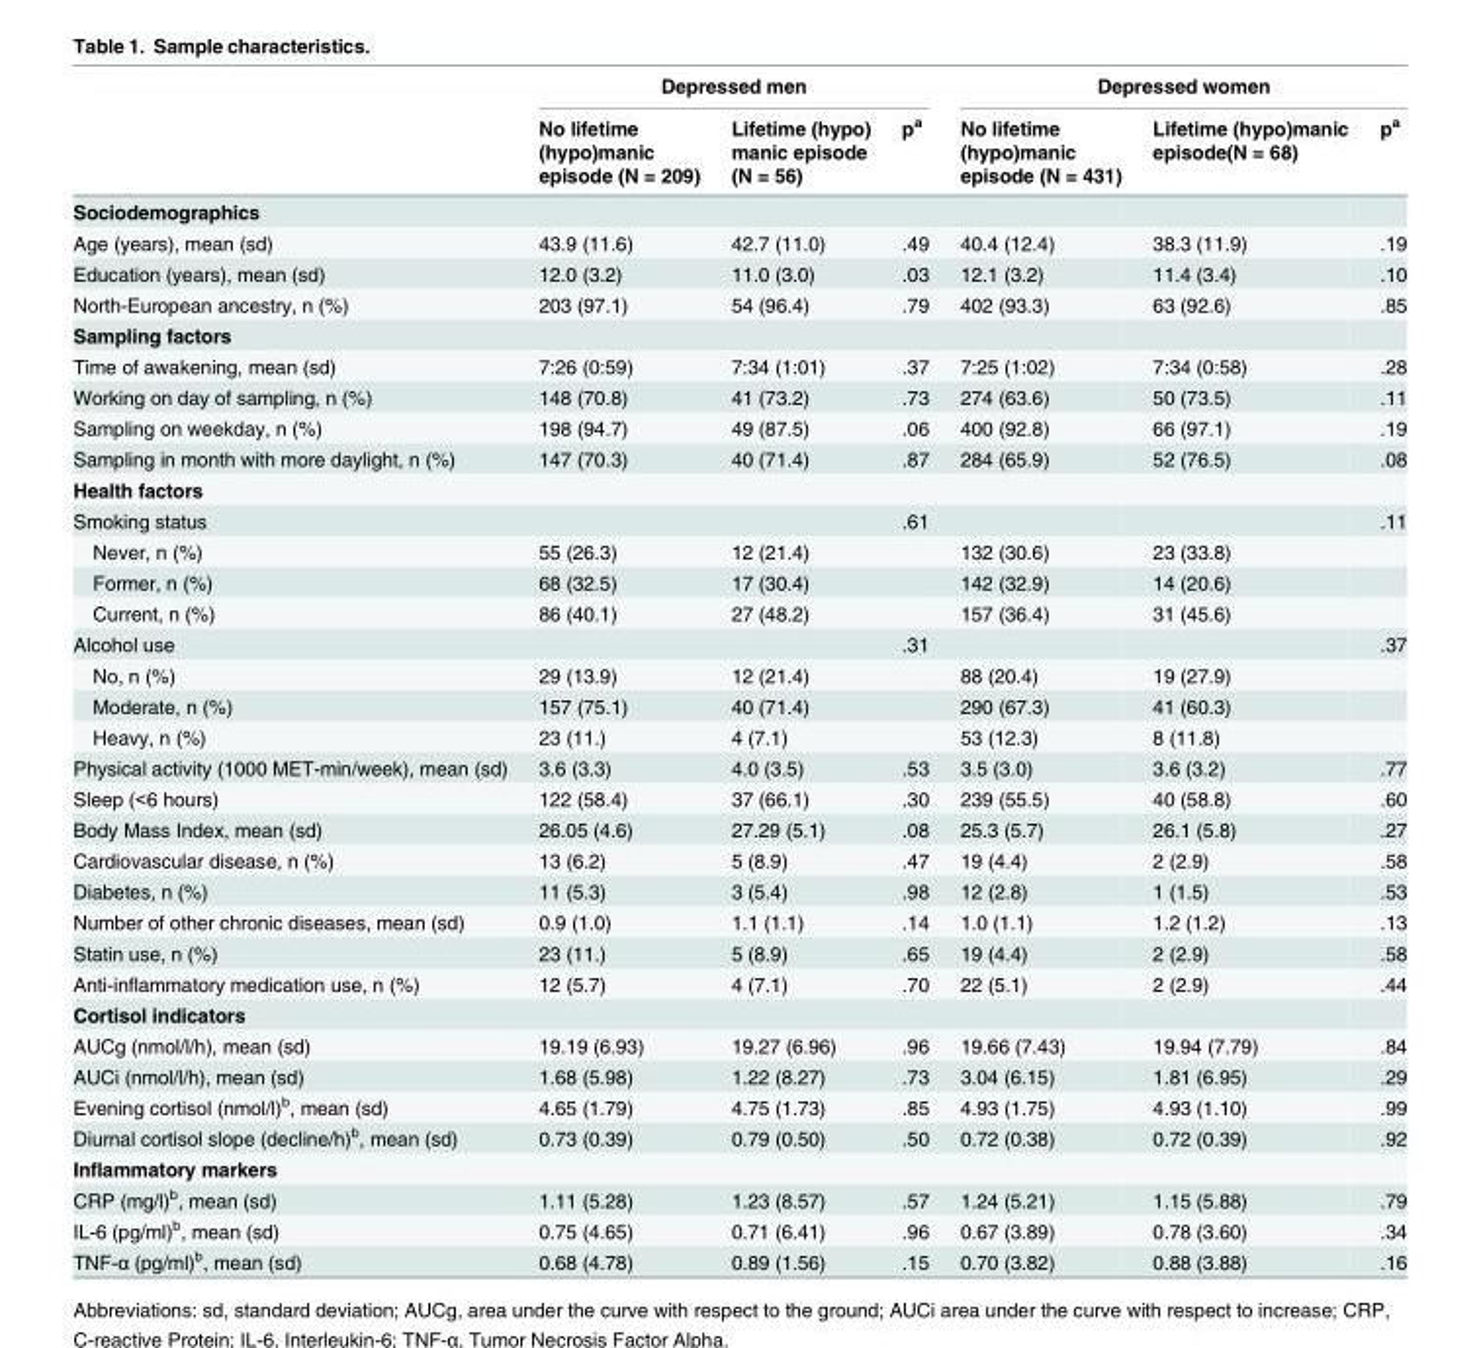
<table><thead><tr><td rowspan="2"></td><td colspan="3">Depressed men</td><td colspan="3">Depressed women</td></tr><tr><td>No lifetime (hypo)manic episode (N = 209)</td><td>Lifetime (hypo) manic episode (N = 56)</td><td>p<sup>a</sup></td><td>No lifetime (hypo)manic episode (N = 431)</td><td>Lifetime (hypo)manic episode(N = 68)</td><td>p<sup>a</sup></td></tr></thead><tbody><tr><td colspan="7">Sociodemographics</td></tr><tr><td>Age (years), mean (sd)</td><td>43.9 (11.6)</td><td>42.7 (11.0)</td><td>.49</td><td>40.4 (12.4)</td><td>38.3 (11.9)</td><td>.19</td></tr><tr><td>Education (years), mean (sd)</td><td>12.0 (3.2)</td><td>11.0 (3.0)</td><td>.03</td><td>12.1 (3.2)</td><td>11.4 (3.4)</td><td>.10</td></tr><tr><td>North-European ancestry, n (%)</td><td>203 (97.1)</td><td>54 (96.4)</td><td>.79</td><td>402 (93.3)</td><td>63 (92.6)</td><td>.85</td></tr><tr><td colspan="7">Sampling factors</td></tr><tr><td>Time of awakening, mean (sd)</td><td>7:26 (0:59)</td><td>7:34 (1:01)</td><td>.37</td><td>7:25 (1:02)</td><td>7:34 (0:58)</td><td>.28</td></tr><tr><td>Working on day of sampling, n (%)</td><td>148 (70.8)</td><td>41 (73.2)</td><td>.73</td><td>274 (63.6)</td><td>50 (73.5)</td><td>.11</td></tr><tr><td>Sampling on weekday, n (%)</td><td>198 (94.7)</td><td>49 (87.5)</td><td>.06</td><td>400 (92.8)</td><td>66 (97.1)</td><td>.19</td></tr><tr><td>Sampling in month with more daylight, n (%)</td><td>147 (70.3)</td><td>40 (71.4)</td><td>.87</td><td>284 (65.9)</td><td>52 (76.5)</td><td>.08</td></tr><tr><td colspan="7">Health factors</td></tr><tr><td>Smoking status</td><td></td><td></td><td>.61</td><td></td><td></td><td>.11</td></tr><tr><td>Never, n (%)</td><td>55 (26.3)</td><td>12 (21.4)</td><td></td><td>132 (30.6)</td><td>23 (33.8)</td><td></td></tr><tr><td>Former, n (%)</td><td>68 (32.5)</td><td>17 (30.4)</td><td></td><td>142 (32.9)</td><td>14 (20.6)</td><td></td></tr><tr><td>Current, n (%)</td><td>86 (40.1)</td><td>27 (48.2)</td><td></td><td>157 (36.4)</td><td>31 (45.6)</td><td></td></tr><tr><td>Alcohol use</td><td></td><td></td><td>.31</td><td></td><td></td><td>.37</td></tr><tr><td>No, n (%)</td><td>29 (13.9)</td><td>12 (21.4)</td><td></td><td>88 (20.4)</td><td>19 (27.9)</td><td></td></tr><tr><td>Moderate, n (%)</td><td>157 (75.1)</td><td>40 (71.4)</td><td></td><td>290 (67.3)</td><td>41 (60.3)</td><td></td></tr><tr><td>Heavy, n (%)</td><td>23 (11.)</td><td>4 (7.1)</td><td></td><td>53 (12.3)</td><td>8 (11.8)</td><td></td></tr><tr><td>Physical activity (1000 MET-min/week), mean (sd)</td><td>3.6 (3.3)</td><td>4.0 (3.5)</td><td>.53</td><td>3.5 (3.0)</td><td>3.6 (3.2)</td><td>.77</td></tr><tr><td>Sleep (&lt;6 hours)</td><td>122 (58.4)</td><td>37 (66.1)</td><td>.30</td><td>239 (55.5)</td><td>40 (58.8)</td><td>.60</td></tr><tr><td>Body Mass Index, mean (sd)</td><td>26.05 (4.6)</td><td>27.29 (5.1)</td><td>.08</td><td>25.3 (5.7)</td><td>26.1 (5.8)</td><td>.27</td></tr><tr><td>Cardiovascular disease, n (%)</td><td>13 (6.2)</td><td>5 (8.9)</td><td>.47</td><td>19 (4.4)</td><td>2 (2.9)</td><td>.58</td></tr><tr><td>Diabetes, n (%)</td><td>11 (5.3)</td><td>3 (5.4)</td><td>.98</td><td>12 (2.8)</td><td>1 (1.5)</td><td>.53</td></tr><tr><td>Number of other chronic diseases, mean (sd)</td><td>0.9 (1.0)</td><td>1.1 (1.1)</td><td>.14</td><td>1.0 (1.1)</td><td>1.2 (1.2)</td><td>.13</td></tr><tr><td>Statin use, n (%)</td><td>23 (11.)</td><td>5 (8.9)</td><td>.65</td><td>19 (4.4)</td><td>2 (2.9)</td><td>.58</td></tr><tr><td>Anti-inflammatory medication use, n (%)</td><td>12 (5.7)</td><td>4 (7.1)</td><td>.70</td><td>22 (5.1)</td><td>2 (2.9)</td><td>.44</td></tr><tr><td colspan="7">Cortisol indicators</td></tr><tr><td>AUCg (nmol/l/h), mean (sd)</td><td>19.19 (6.93)</td><td>19.27 (6.96)</td><td>.96</td><td>19.66 (7.43)</td><td>19.94 (7.79)</td><td>.84</td></tr><tr><td>AUCi (nmol/l/h), mean (sd)</td><td>1.68 (5.98)</td><td>1.22 (8.27)</td><td>.73</td><td>3.04 (6.15)</td><td>1.81 (6.95)</td><td>.29</td></tr><tr><td>Evening cortisol (nmol/l)<sup>b</sup>, mean (sd)</td><td>4.65 (1.79)</td><td>4.75 (1.73)</td><td>.85</td><td>4.93 (1.75)</td><td>4.93 (1.10)</td><td>.99</td></tr><tr><td>Diurnal cortisol slope (decline/h)<sup>b</sup>, mean (sd)</td><td>0.73 (0.39)</td><td>0.79 (0.50)</td><td>.50</td><td>0.72 (0.38)</td><td>0.72 (0.39)</td><td>.92</td></tr><tr><td colspan="7">Inflammatory markers</td></tr><tr><td>CRP (mg/l)<sup>b</sup>, mean (sd)</td><td>1.11 (5.28)</td><td>1.23 (8.57)</td><td>.57</td><td>1.24 (5.21)</td><td>1.15 (5.88)</td><td>.79</td></tr><tr><td>IL-6 (pg/ml)<sup>b</sup>, mean (sd)</td><td>0.75 (4.65)</td><td>0.71 (6.41)</td><td>.96</td><td>0.67 (3.89)</td><td>0.78 (3.60)</td><td>.34</td></tr><tr><td>TNF-α (pg/ml)<sup>b</sup>, mean (sd)</td><td>0.68 (4.78)</td><td>0.89 (1.56)</td><td>.15</td><td>0.70 (3.82)</td><td>0.88 (3.88)</td><td>.16</td></tr></tbody></table>